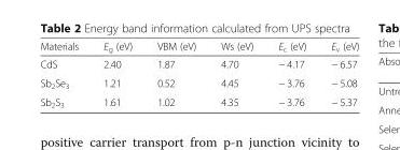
<table><thead><tr><td>Materials</td><td>E<sub>g</sub> (eV)</td><td>VBM (eV)</td><td>Ws (eV)</td><td>E<sub>c</sub> (eV)</td><td>E<sub>v</sub> (eV)</td></tr></thead><tbody><tr><td>CdS</td><td>2.40</td><td>1.87</td><td>4.70</td><td>− 4.17</td><td>− 6.57</td></tr><tr><td>Sb<sub>2</sub>Se<sub>3</sub></td><td>1.21</td><td>0.52</td><td>4.45</td><td>− 3.76</td><td>− 5.08</td></tr><tr><td>Sb<sub>2</sub>S<sub>3</sub></td><td>1.61</td><td>1.02</td><td>4.35</td><td>− 3.76</td><td>− 5.37</td></tr></tbody></table>